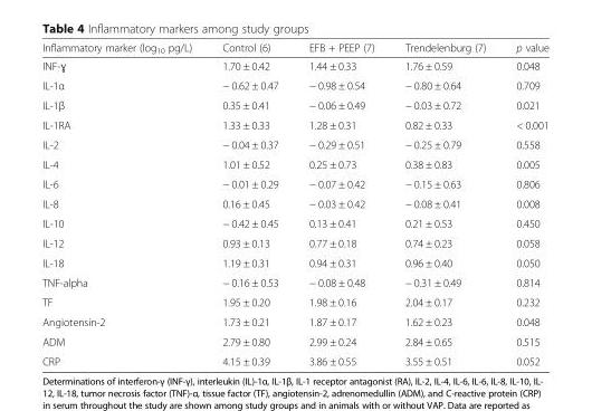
<table><thead><tr><td>Inflammatory marker (log<sub>10</sub> pg/L)</td><td>Control (6)</td><td>EFB + PEEP (7)</td><td>Trendelenburg (7)</td><td>p value</td></tr></thead><tbody><tr><td>INF-ɣ</td><td>1.70 ± 0.42</td><td>1.44 ± 0.33</td><td>1.76 ± 0.59</td><td>0.048</td></tr><tr><td>IL-1α</td><td>− 0.62 ± 0.47</td><td>− 0.98 ± 0.54</td><td>− 0.80 ± 0.64</td><td>0.709</td></tr><tr><td>IL-1β</td><td>0.35 ± 0.41</td><td>− 0.06 ± 0.49</td><td>− 0.03 ± 0.72</td><td>0.021</td></tr><tr><td>IL-1RA</td><td>1.33 ± 0.33</td><td>1.28 ± 0.31</td><td>0.82 ± 0.33</td><td>&lt; 0.001</td></tr><tr><td>IL-2</td><td>− 0.04 ± 0.37</td><td>− 0.29 ± 0.51</td><td>− 0.25 ± 0.79</td><td>0.558</td></tr><tr><td>IL-4</td><td>1.01 ± 0.52</td><td>0.25 ± 0.73</td><td>0.38 ± 0.83</td><td>0.005</td></tr><tr><td>IL-6</td><td>− 0.01 ± 0.29</td><td>− 0.07 ± 0.42</td><td>− 0.15 ± 0.63</td><td>0.806</td></tr><tr><td>IL-8</td><td>0.16 ± 0.45</td><td>− 0.03 ± 0.42</td><td>− 0.08 ± 0.41</td><td>0.008</td></tr><tr><td>IL-10</td><td>− 0.42 ± 0.45</td><td>0.13 ± 0.41</td><td>0.21 ± 0.53</td><td>0.450</td></tr><tr><td>IL-12</td><td>0.93 ± 0.13</td><td>0.77 ± 0.18</td><td>0.74 ± 0.23</td><td>0.058</td></tr><tr><td>IL-18</td><td>1.19 ± 0.31</td><td>0.94 ± 0.31</td><td>0.96 ± 0.40</td><td>0.050</td></tr><tr><td>TNF-alpha</td><td>− 0.16 ± 0.53</td><td>− 0.08 ± 0.48</td><td>− 0.31 ± 0.49</td><td>0.814</td></tr><tr><td>TF</td><td>1.95 ± 0.20</td><td>1.98 ± 0.16</td><td>2.04 ± 0.17</td><td>0.232</td></tr><tr><td>Angiotensin-2</td><td>1.73 ± 0.21</td><td>1.87 ± 0.17</td><td>1.62 ± 0.23</td><td>0.048</td></tr><tr><td>ADM</td><td>2.79 ± 0.80</td><td>2.99 ± 0.24</td><td>2.84 ± 0.65</td><td>0.515</td></tr><tr><td>CRP</td><td>4.15 ± 0.39</td><td>3.86 ± 0.55</td><td>3.55 ± 0.51</td><td>0.052</td></tr></tbody></table>